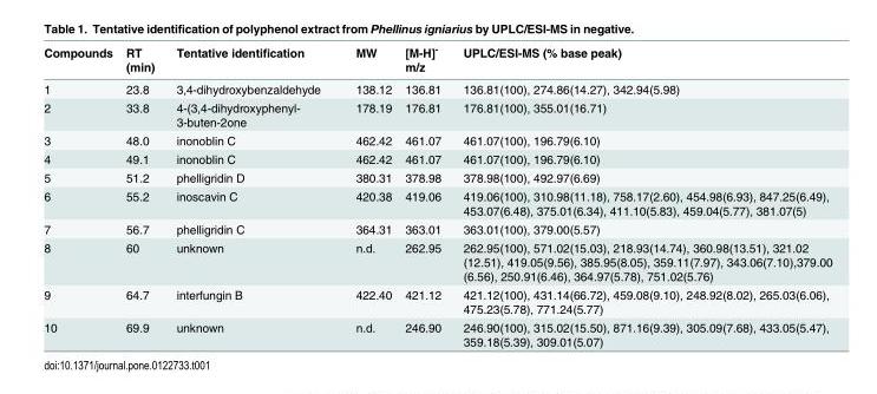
<table><thead><tr><td>Compounds</td><td>RT (min)</td><td>Tentative identification</td><td>MW</td><td>[M-H]<sup>-</sup> m/z</td><td>UPLC/ESI-MS (% base peak)</td></tr></thead><tbody><tr><td>1</td><td>23.8</td><td>3,4-dihydroxybenzaldehyde</td><td>138.12</td><td>136.81</td><td>136.81(100), 274.86(14.27), 342.94(5.98)</td></tr><tr><td>2</td><td>33.8</td><td>4-(3,4-dihydroxyphenyl- 3-buten-2one</td><td>178.19</td><td>176.81</td><td>176.81(100), 355.01(16.71)</td></tr><tr><td>3</td><td>48.0</td><td>inonoblin C</td><td>462.42</td><td>461.07</td><td>461.07(100), 196.79(6.10)</td></tr><tr><td>4</td><td>49.1</td><td>inonoblin C</td><td>462.42</td><td>461.07</td><td>461.07(100), 196.79(6.10)</td></tr><tr><td>5</td><td>51.2</td><td>phelligridin D</td><td>380.31</td><td>378.98</td><td>378.98(100), 492.97(6.69)</td></tr><tr><td>6</td><td>55.2</td><td>inoscavin C</td><td>420.38</td><td>419.06</td><td>419.06(100), 310.98(11.18), 758.17(2.60), 454.98(6.93), 847.25(6.49), 453.07(6.48), 375.01(6.34), 411.10(5.83), 459.04(5.77), 381.07(5)</td></tr><tr><td>7</td><td>56.7</td><td>phelligridin C</td><td>364.31</td><td>363.01</td><td>363.01(100), 379.00(5.57)</td></tr><tr><td>8</td><td>60</td><td>unknown</td><td>n.d.</td><td>262.95</td><td>262.95(100), 571.02(15.03), 218.93(14.74), 360.98(13.51), 321.02 (12.51), 419.05(9.56), 385.95(8.05), 359.11(7.97), 343.06(7.10),379.00 (6.56), 250.91(6.46), 364.97(5.78), 751.02(5.76)</td></tr><tr><td>9</td><td>64.7</td><td>interfungin B</td><td>422.40</td><td>421.12</td><td>421.12(100), 431.14(66.72), 459.08(9.10), 248.92(8.02), 265.03(6.06), 475.23(5.78), 771.24(5.77)</td></tr><tr><td>10</td><td>69.9</td><td>unknown</td><td>n.d.</td><td>246.90</td><td>246.90(100), 315.02(15.50), 871.16(9.39), 305.09(7.68), 433.05(5.47), 359.18(5.39), 309.01(5.07)</td></tr></tbody></table>